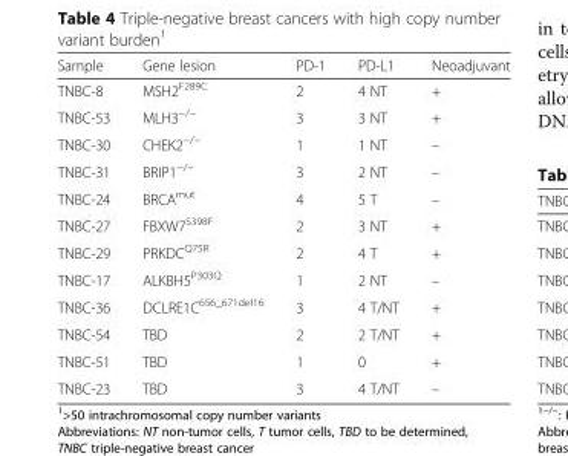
<table><thead><tr><td>Sample</td><td>Gene lesion</td><td>PD-1</td><td>PD-L1</td><td>Neoadjuvant</td></tr></thead><tbody><tr><td>TNBC-8</td><td>MSH2<sup>F289C</sup></td><td>2</td><td>4 NT</td><td>+</td></tr><tr><td>TNBC-53</td><td>MLH3<sup>−/−</sup></td><td>3</td><td>3 NT</td><td>+</td></tr><tr><td>TNBC-30</td><td>CHEK2<sup>−/−</sup></td><td>1</td><td>1 NT</td><td>–</td></tr><tr><td>TNBC-31</td><td>BRIP1<sup>−/−</sup></td><td>3</td><td>2 NT</td><td>–</td></tr><tr><td>TNBC-24</td><td>BRCA<sup>mut</sup></td><td>4</td><td>5 T</td><td>–</td></tr><tr><td>TNBC-27</td><td>FBXW7<sup>S398F</sup></td><td>2</td><td>3 NT</td><td>+</td></tr><tr><td>TNBC-29</td><td>PRKDC<sup>Q75R</sup></td><td>2</td><td>4 T</td><td>+</td></tr><tr><td>TNBC-17</td><td>ALKBH5<sup>P303Q</sup></td><td>1</td><td>2 NT</td><td>–</td></tr><tr><td>TNBC-36</td><td>DCLRE1C<sup>656_671del16</sup></td><td>3</td><td>4 T/NT</td><td>+</td></tr><tr><td>TNBC-54</td><td>TBD</td><td>2</td><td>2 T/NT</td><td>+</td></tr><tr><td>TNBC-51</td><td>TBD</td><td>1</td><td>0</td><td>+</td></tr><tr><td>TNBC-23</td><td>TBD</td><td>3</td><td>4 T/NT</td><td>–</td></tr></tbody></table>